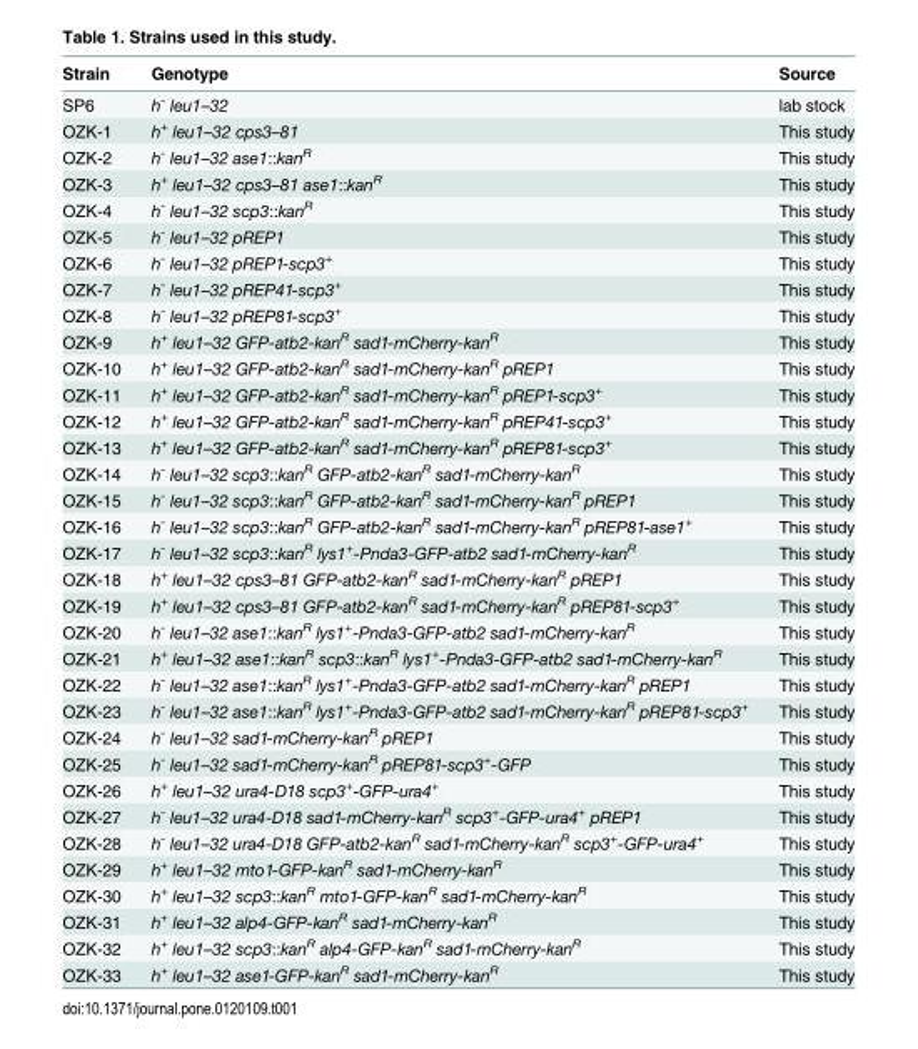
<table><thead><tr><td>Strain</td><td>Genotype</td><td>Source</td></tr></thead><tbody><tr><td>SP6</td><td>h<sup>-</sup> leu1–32</td><td>lab stock</td></tr><tr><td>OZK-1</td><td>h<sup>+</sup> leu1–32 cps3–81</td><td>This study</td></tr><tr><td>OZK-2</td><td>h<sup>-</sup> leu1–32 ase1::kan<sup>R</sup></td><td>This study</td></tr><tr><td>OZK-3</td><td>h<sup>+</sup> leu1–32 cps3–81 ase1::kan<sup>R</sup></td><td>This study</td></tr><tr><td>OZK-4</td><td>h<sup>-</sup> leu1–32 scp3::kan<sup>R</sup></td><td>This study</td></tr><tr><td>OZK-5</td><td>h<sup>-</sup> leu1–32 pREP1</td><td>This study</td></tr><tr><td>OZK-6</td><td>h<sup>-</sup> leu1–32 pREP1-scp3<sup>+</sup></td><td>This study</td></tr><tr><td>OZK-7</td><td>h<sup>-</sup> leu1–32 pREP41-scp3<sup>+</sup></td><td>This study</td></tr><tr><td>OZK-8</td><td>h<sup>-</sup> leu1–32 pREP81-scp3<sup>+</sup></td><td>This study</td></tr><tr><td>OZK-9</td><td>h<sup>+</sup> leu1–32 GFP-atb2-kan<sup>R</sup> sad1-mCherry-kan<sup>R</sup></td><td>This study</td></tr><tr><td>OZK-10</td><td>h<sup>+</sup> leu1–32 GFP-atb2-kan<sup>R</sup> sad1-mCherry-kan<sup>R</sup> pREP1</td><td>This study</td></tr><tr><td>OZK-11</td><td>h<sup>+</sup> leu1–32 GFP-atb2-kan<sup>R</sup> sad1-mCherry-kan<sup>R</sup> pREP1-scp3<sup>+</sup></td><td>This study</td></tr><tr><td>OZK-12</td><td>h<sup>+</sup> leu1–32 GFP-atb2-kan<sup>R</sup> sad1-mCherry-kan<sup>R</sup> pREP41-scp3<sup>+</sup></td><td>This study</td></tr><tr><td>OZK-13</td><td>h<sup>+</sup> leu1–32 GFP-atb2-kan<sup>R</sup> sad1-mCherry-kan<sup>R</sup> pREP81-scp3<sup>+</sup></td><td>This study</td></tr><tr><td>OZK-14</td><td>h<sup>-</sup> leu1–32 scp3::kan<sup>R</sup> GFP-atb2-kan<sup>R</sup> sad1-mCherry-kan<sup>R</sup></td><td>This study</td></tr><tr><td>OZK-15</td><td>h<sup>-</sup> leu1–32 scp3::kan<sup>R</sup> GFP-atb2-kan<sup>R</sup> sad1-mCherry-kan<sup>R</sup> pREP1</td><td>This study</td></tr><tr><td>OZK-16</td><td>h<sup>-</sup> leu1–32 scp3::kan<sup>R</sup> GFP-atb2-kan<sup>R</sup> sad1-mCherry-kan<sup>R</sup> pREP81-ase1<sup>+</sup></td><td>This study</td></tr><tr><td>OZK-17</td><td>h<sup>-</sup> leu1–32 scp3::kan<sup>R</sup> lys1<sup>+</sup>-Pnda3-GFP-atb2 sad1-mCherry-kan<sup>R</sup></td><td>This study</td></tr><tr><td>OZK-18</td><td>h<sup>+</sup> leu1–32 cps3–81 GFP-atb2-kan<sup>R</sup> sad1-mCherry-kan<sup>R</sup> pREP1</td><td>This study</td></tr><tr><td>OZK-19</td><td>h<sup>+</sup> leu1–32 cps3–81 GFP-atb2-kan<sup>R</sup> sad1-mCherry-kan<sup>R</sup> pREP81-scp3<sup>+</sup></td><td>This study</td></tr><tr><td>OZK-20</td><td>h<sup>-</sup> leu1–32 ase1::kan<sup>R</sup> lys1<sup>+</sup>-Pnda3-GFP-atb2 sad1-mCherry-kan<sup>R</sup></td><td>This study</td></tr><tr><td>OZK-21</td><td>h<sup>+</sup> leu1–32 ase1::kan<sup>R</sup> scp3::kan<sup>R</sup> lys1<sup>+</sup>-Pnda3-GFP-atb2 sad1-mCherry-kan<sup>R</sup></td><td>This study</td></tr><tr><td>OZK-22</td><td>h<sup>-</sup> leu1–32 ase1::kan<sup>R</sup> lys1<sup>+</sup>-Pnda3-GFP-atb2 sad1-mCherry-kan<sup>R</sup> pREP1</td><td>This study</td></tr><tr><td>OZK-23</td><td>h<sup>-</sup> leu1–32 ase1::kan<sup>R</sup> lys1<sup>+</sup>-Pnda3-GFP-atb2 sad1-mCherry-kan<sup>R</sup> pREP81-scp3<sup>+</sup></td><td>This study</td></tr><tr><td>OZK-24</td><td>h<sup>-</sup> leu1–32 sad1-mCherry-kan<sup>R</sup> pREP1</td><td>This study</td></tr><tr><td>OZK-25</td><td>h<sup>-</sup> leu1–32 sad1-mCherry-kan<sup>R</sup> pREP81-scp3<sup>+</sup>-GFP</td><td>This study</td></tr><tr><td>OZK-26</td><td>h<sup>+</sup> leu1–32 ura4-D18 scp3<sup>+</sup>-GFP-ura4<sup>+</sup></td><td>This study</td></tr><tr><td>OZK-27</td><td>h<sup>-</sup> leu1–32 ura4-D18 sad1-mCherry-kan<sup>R</sup> scp3<sup>+</sup>-GFP-ura4<sup>+</sup> pREP1</td><td>This study</td></tr><tr><td>OZK-28</td><td>h<sup>-</sup> leu1–32 ura4-D18 GFP-atb2-kan<sup>R</sup> sad1-mCherry-kan<sup>R</sup> scp3<sup>+</sup>-GFP-ura4<sup>+</sup></td><td>This study</td></tr><tr><td>OZK-29</td><td>h<sup>+</sup> leu1–32 mto1-GFP-kan<sup>R</sup> sad1-mCherry-kan<sup>R</sup></td><td>This study</td></tr><tr><td>OZK-30</td><td>h<sup>+</sup> leu1–32 scp3::kan<sup>R</sup> mto1-GFP-kan<sup>R</sup> sad1-mCherry-kan<sup>R</sup></td><td>This study</td></tr><tr><td>OZK-31</td><td>h<sup>+</sup> leu1–32 alp4-GFP-kan<sup>R</sup> sad1-mCherry-kan<sup>R</sup></td><td>This study</td></tr><tr><td>OZK-32</td><td>h<sup>+</sup> leu1–32 scp3::kan<sup>R</sup> alp4-GFP-kan<sup>R</sup> sad1-mCherry-kan<sup>R</sup></td><td>This study</td></tr><tr><td>OZK-33</td><td>h<sup>+</sup> leu1–32 ase1-GFP-kan<sup>R</sup> sad1-mCherry-kan<sup>R</sup></td><td>This study</td></tr></tbody></table>